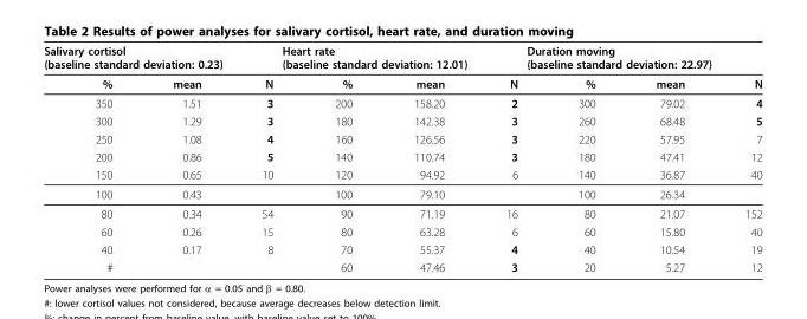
<table><thead><tr><td colspan="3">Salivary cortisol (baseline standard deviation: 0.23)</td><td colspan="3">Heart rate (baseline standard deviation: 12.01)</td><td colspan="3">Duration moving (baseline standard deviation: 22.97)</td></tr><tr><td>%</td><td>mean</td><td>N</td><td>%</td><td>mean</td><td>N</td><td>%</td><td>mean</td><td>N</td></tr></thead><tbody><tr><td>350</td><td>1.51</td><td>3</td><td>200</td><td>158.20</td><td>2</td><td>300</td><td>79.02</td><td>4</td></tr><tr><td>300</td><td>1.29</td><td>3</td><td>180</td><td>142.38</td><td>3</td><td>260</td><td>68.48</td><td>5</td></tr><tr><td>250</td><td>1.08</td><td>4</td><td>160</td><td>126.56</td><td>3</td><td>220</td><td>57.95</td><td>7</td></tr><tr><td>200</td><td>0.86</td><td>5</td><td>140</td><td>110.74</td><td>3</td><td>180</td><td>47.41</td><td>12</td></tr><tr><td>150</td><td>0.65</td><td>10</td><td>120</td><td>94.92</td><td>6</td><td>140</td><td>36.87</td><td>40</td></tr><tr><td>100</td><td>0.43</td><td></td><td>100</td><td>79.10</td><td></td><td>100</td><td>26.34</td><td></td></tr><tr><td>80</td><td>0.34</td><td>54</td><td>90</td><td>71.19</td><td>16</td><td>80</td><td>21.07</td><td>152</td></tr><tr><td>60</td><td>0.26</td><td>15</td><td>80</td><td>63.28</td><td>6</td><td>60</td><td>15.80</td><td>40</td></tr><tr><td>40</td><td>0.17</td><td>8</td><td>70</td><td>55.37</td><td>4</td><td>40</td><td>10.54</td><td>19</td></tr><tr><td>#</td><td></td><td></td><td>60</td><td>47.46</td><td>3</td><td>20</td><td>5.27</td><td>12</td></tr></tbody></table>